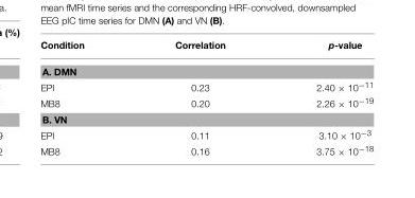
<table><thead><tr><td>Condition</td><td>Correlation</td><td>p-value</td></tr></thead><tbody><tr><td colspan="3">A. DMN</td></tr><tr><td>EPI</td><td>0.23</td><td>2.40 × 10<sup>−11</sup></td></tr><tr><td>MB8</td><td>0.20</td><td>2.26 × 10<sup>−19</sup></td></tr><tr><td colspan="3">B. VN</td></tr><tr><td>EPI</td><td>0.11</td><td>3.10 × 10<sup>−3</sup></td></tr><tr><td>MB8</td><td>0.16</td><td>3.75 × 10<sup>−18</sup></td></tr></tbody></table>